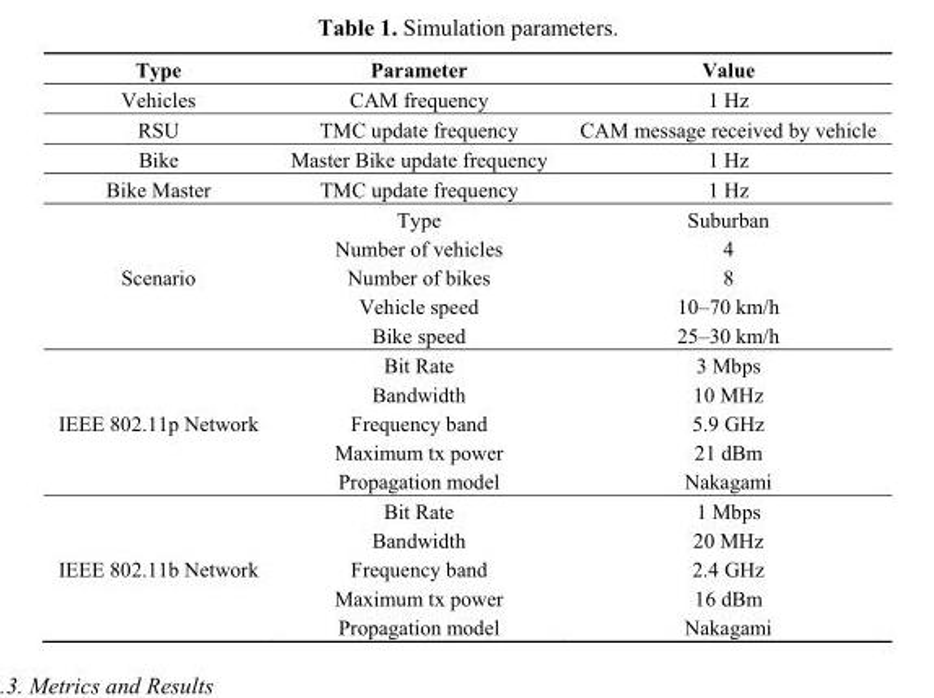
<table><thead><tr><td>Type</td><td>Parameter</td><td>Value</td></tr></thead><tbody><tr><td>Vehicles</td><td>CAM frequency</td><td>1 Hz</td></tr><tr><td>RSU</td><td>TMC update frequency</td><td>CAM message received by vehicle</td></tr><tr><td>Bike</td><td>Master Bike update frequency</td><td>1 Hz</td></tr><tr><td>Bike Master</td><td>TMC update frequency</td><td>1 Hz</td></tr><tr><td rowspan="5">Scenario</td><td>Type</td><td>Suburban</td></tr><tr><td>Number of vehicles</td><td>4</td></tr><tr><td>Number of bikes</td><td>8</td></tr><tr><td>Vehicle speed</td><td>10–70 km/h</td></tr><tr><td>Bike speed</td><td>25–30 km/h</td></tr><tr><td rowspan="5">IEEE 802.11p Network</td><td>Bit Rate</td><td>3 Mbps</td></tr><tr><td>Bandwidth</td><td>10 MHz</td></tr><tr><td>Frequency band</td><td>5.9 GHz</td></tr><tr><td>Maximum tx power</td><td>21 dBm</td></tr><tr><td>Propagation model</td><td>Nakagami</td></tr><tr><td rowspan="5">IEEE 802.11b Network</td><td>Bit Rate</td><td>1 Mbps</td></tr><tr><td>Bandwidth</td><td>20 MHz</td></tr><tr><td>Frequency band</td><td>2.4 GHz</td></tr><tr><td>Maximum tx power</td><td>16 dBm</td></tr><tr><td>Propagation model</td><td>Nakagami</td></tr></tbody></table>